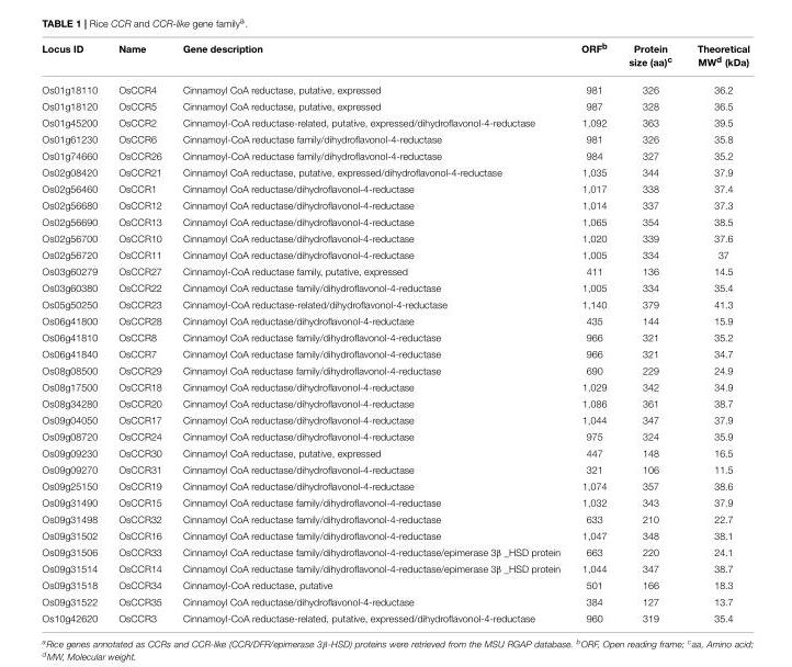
<table><thead><tr><td>Locus ID</td><td>Name</td><td>Gene description</td><td>ORF<sup>b</sup></td><td>Protein size (aa)<sup>c</sup></td><td>Theoretical MW<sup>d</sup> (kDa)</td></tr></thead><tbody><tr><td>Os01g18110</td><td>OsCCR4</td><td>Cinnamoyl CoA reductase, putative, expressed</td><td>981</td><td>326</td><td>36.2</td></tr><tr><td>Os01g18120</td><td>OsCCR5</td><td>Cinnamoyl CoA reductase, putative, expressed</td><td>987</td><td>328</td><td>36.5</td></tr><tr><td>Os01g45200</td><td>OsCCR2</td><td>Cinnamoyl-CoA reductase-related, putative, expressed/dihydroflavonol-4-reductase</td><td>1,092</td><td>363</td><td>39.5</td></tr><tr><td>Os01g61230</td><td>OsCCR6</td><td>Cinnamoyl-CoA reductase family/dihydroflavonol-4-reductase</td><td>981</td><td>326</td><td>35.8</td></tr><tr><td>Os01g74660</td><td>OsCCR26</td><td>Cinnamoyl-CoA reductase family/dihydroflavonol-4-reductase</td><td>984</td><td>327</td><td>35.2</td></tr><tr><td>Os02g08420</td><td>OsCCR21</td><td>Cinnamoyl CoA reductase, putative, expressed/dihydroflavonol-4-reductase</td><td>1,035</td><td>344</td><td>37.9</td></tr><tr><td>Os02g56460</td><td>OsCCR1</td><td>Cinnamoyl CoA reductase/dihydroflavonol-4-reductase</td><td>1,017</td><td>338</td><td>37.4</td></tr><tr><td>Os02g56680</td><td>OsCCR12</td><td>Cinnamoyl CoA reductase/dihydroflavonol-4-reductase</td><td>1,014</td><td>337</td><td>37.3</td></tr><tr><td>Os02g56690</td><td>OsCCR13</td><td>Cinnamoyl CoA reductase/dihydroflavonol-4-reductase</td><td>1,065</td><td>354</td><td>38.5</td></tr><tr><td>Os02g56700</td><td>OsCCR10</td><td>Cinnamoyl CoA reductase/dihydroflavonol-4-reductase</td><td>1,020</td><td>339</td><td>37.6</td></tr><tr><td>Os02g56720</td><td>OsCCR11</td><td>Cinnamoyl CoA reductase/dihydroflavonol-4-reductase</td><td>1,005</td><td>334</td><td>37</td></tr><tr><td>Os03g60279</td><td>OsCCR27</td><td>Cinnamoyl-CoA reductase family, putative, expressed</td><td>411</td><td>136</td><td>14.5</td></tr><tr><td>Os03g60380</td><td>OsCCR22</td><td>Cinnamoyl CoA reductase family/dihydroflavonol-4-reductase</td><td>1,005</td><td>334</td><td>35.4</td></tr><tr><td>Os05g50250</td><td>OsCCR23</td><td>Cinnamoyl-CoA reductase-related/dihydroflavonol-4-reductase</td><td>1,140</td><td>379</td><td>41.3</td></tr><tr><td>Os06g41800</td><td>OsCCR28</td><td>Cinnamoyl CoA reductase/dihydroflavonol-4-reductase</td><td>435</td><td>144</td><td>15.9</td></tr><tr><td>Os06g41810</td><td>OsCCR8</td><td>Cinnamoyl CoA reductase family/dihydroflavonol-4-reductase</td><td>966</td><td>321</td><td>35.2</td></tr><tr><td>Os06g41840</td><td>OsCCR7</td><td>Cinnamoyl CoA reductase family/dihydroflavonol-4-reductase</td><td>966</td><td>321</td><td>34.7</td></tr><tr><td>Os08g08500</td><td>OsCCR29</td><td>Cinnamoyl CoA reductase family/dihydroflavonol-4-reductase</td><td>690</td><td>229</td><td>24.9</td></tr><tr><td>Os08g17500</td><td>OsCCR18</td><td>Cinnamoyl CoA reductase/dihydroflavonol-4-reductase</td><td>1,029</td><td>342</td><td>34.9</td></tr><tr><td>Os08g34280</td><td>OsCCR20</td><td>Cinnamoyl CoA reductase/dihydroflavonol-4-reductase</td><td>1,086</td><td>361</td><td>38.7</td></tr><tr><td>Os09g04050</td><td>OsCCR17</td><td>Cinnamoyl CoA reductase/dihydroflavonol-4-reductase</td><td>1,044</td><td>347</td><td>37.9</td></tr><tr><td>Os09g08720</td><td>OsCCR24</td><td>Cinnamoyl CoA reductase/dihydroflavonol-4-reductase</td><td>975</td><td>324</td><td>35.9</td></tr><tr><td>Os09g09230</td><td>OsCCR30</td><td>Cinnamoyl CoA reductase, putative, expressed</td><td>447</td><td>148</td><td>16.5</td></tr><tr><td>Os09g09270</td><td>OsCCR31</td><td>Cinnamoyl CoA reductase/dihydroflavonol-4-reductase</td><td>321</td><td>106</td><td>11.5</td></tr><tr><td>Os09g25150</td><td>OsCCR19</td><td>Cinnamoyl CoA reductase/dihydroflavonol-4-reductase</td><td>1,074</td><td>357</td><td>38.6</td></tr><tr><td>Os09g31490</td><td>OsCCR15</td><td>Cinnamoyl CoA reductase family/dihydroflavonol-4-reductase</td><td>1,032</td><td>343</td><td>37.9</td></tr><tr><td>Os09g31498</td><td>OsCCR32</td><td>Cinnamoyl CoA reductase family/dihydroflavonol-4-reductase</td><td>633</td><td>210</td><td>22.7</td></tr><tr><td>Os09g31502</td><td>OsCCR16</td><td>Cinnamoyl CoA reductase family/dihydroflavonol-4-reductase</td><td>1,047</td><td>348</td><td>38.1</td></tr><tr><td>Os09g31506</td><td>OsCCR33</td><td>Cinnamoyl CoA reductase family/dihydroflavonol-4-reductase/epimerase 3β _HSD protein</td><td>663</td><td>220</td><td>24.1</td></tr><tr><td>Os09g31514</td><td>OsCCR14</td><td>Cinnamoyl CoA reductase family/dihydroflavonol-4-reductase/epimerase 3β _HSD protein</td><td>1,044</td><td>347</td><td>38.7</td></tr><tr><td>Os09g31518</td><td>OsCCR34</td><td>Cinnamoyl-CoA reductase, putative</td><td>501</td><td>166</td><td>18.3</td></tr><tr><td>Os09g31522</td><td>OsCCR35</td><td>Cinnamoyl CoA reductase/dihydroflavonol-4-reductase</td><td>384</td><td>127</td><td>13.7</td></tr><tr><td>Os10g42620</td><td>OsCCR3</td><td>Cinnamoyl-CoA reductase-related, putative, expressed/dihydroflavonol-4-reductase</td><td>960</td><td>319</td><td>35.4</td></tr></tbody></table>